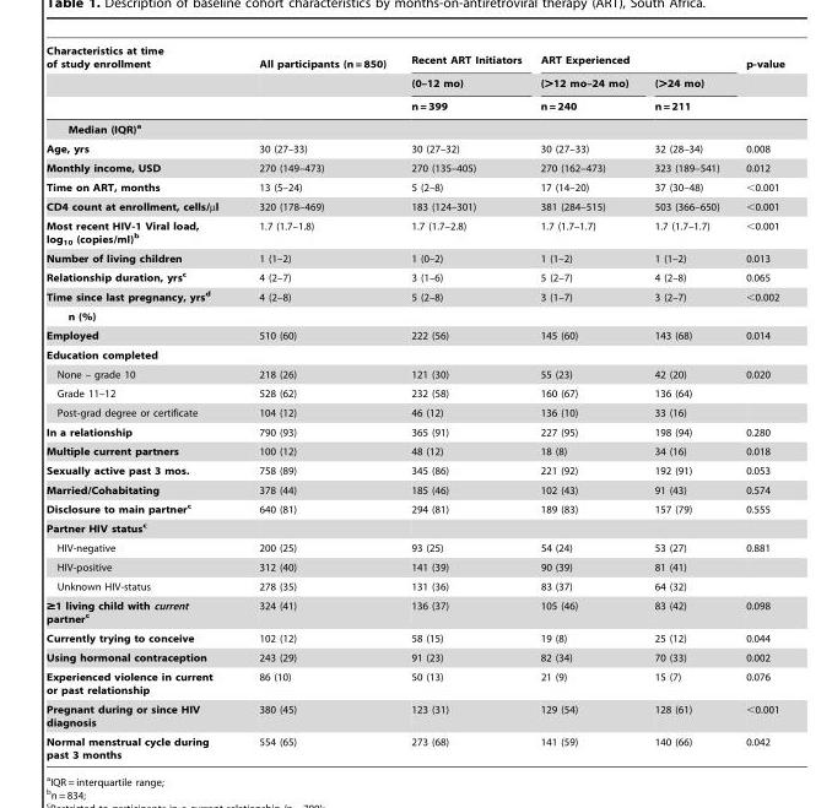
<table><thead><tr><td rowspan="3">Characteristics at time of study enrollment</td><td rowspan="3">All participants (n = 850)</td><td rowspan="3">Recent ART Initiators (0–12 mo) n = 399</td><td colspan="2">ART Experienced</td><td rowspan="3">p-value</td></tr><tr><td rowspan="2">(&gt;12 mo–24 mo) n = 240</td><td rowspan="2">(&gt;24 mo) n = 211</td></tr><tr></tr></thead><tbody><tr><td colspan="6">Median (IQR)a</td></tr><tr><td>Age, yrs</td><td>30 (27–33)</td><td>30 (27–32)</td><td>30 (27–33)</td><td>32 (28–34)</td><td>0.008</td></tr><tr><td>Monthly income, USD</td><td>270 (149–473)</td><td>270 (135–405)</td><td>270 (162–473)</td><td>323 (189–541)</td><td>0.012</td></tr><tr><td>Time on ART, months</td><td>13 (5–24)</td><td>5 (2–8)</td><td>17 (14–20)</td><td>37 (30–48)</td><td>&lt;0.001</td></tr><tr><td>CD4 count at enrollment, cells/µl</td><td>320 (178–469)</td><td>183 (124–301)</td><td>381 (284–515)</td><td>503 (366–650)</td><td>&lt;0.001</td></tr><tr><td>Most recent HIV-1 Viral load, log<sub>10</sub> (copies/ml)b</td><td>1.7 (1.7–1.8)</td><td>1.7 (1.7–2.8)</td><td>1.7 (1.7–1.7)</td><td>1.7 (1.7–1.7)</td><td>&lt;0.001</td></tr><tr><td>Number of living children</td><td>1 (1–2)</td><td>1 (0–2)</td><td>1 (1–2)</td><td>1 (1–2)</td><td>0.013</td></tr><tr><td>Relationship duration, yrsc</td><td>4 (2–7)</td><td>3 (1–6)</td><td>5 (2–7)</td><td>4 (2–8)</td><td>0.065</td></tr><tr><td>Time since last pregnancy, yrsd</td><td>4 (2–8)</td><td>5 (2–8)</td><td>3 (1–7)</td><td>3 (2–7)</td><td>&lt;0.002</td></tr><tr><td colspan="6">n (%)</td></tr><tr><td>Employed</td><td>510 (60)</td><td>222 (56)</td><td>145 (60)</td><td>143 (68)</td><td>0.014</td></tr><tr><td colspan="6">Education completed</td></tr><tr><td>None – grade 10</td><td>218 (26)</td><td>121 (30)</td><td>55 (23)</td><td>42 (20)</td><td>0.020</td></tr><tr><td>Grade 11–12</td><td>528 (62)</td><td>232 (58)</td><td>160 (67)</td><td>136 (64)</td><td></td></tr><tr><td>Post-grad degree or certificate</td><td>104 (12)</td><td>46 (12)</td><td>136 (10)</td><td>33 (16)</td><td></td></tr><tr><td>In a relationship</td><td>790 (93)</td><td>365 (91)</td><td>227 (95)</td><td>198 (94)</td><td>0.280</td></tr><tr><td>Multiple current partners</td><td>100 (12)</td><td>48 (12)</td><td>18 (8)</td><td>34 (16)</td><td>0.018</td></tr><tr><td>Sexually active past 3 mos.</td><td>758 (89)</td><td>345 (86)</td><td>221 (92)</td><td>192 (91)</td><td>0.053</td></tr><tr><td>Married/Cohabitating</td><td>378 (44)</td><td>185 (46)</td><td>102 (43)</td><td>91 (43)</td><td>0.574</td></tr><tr><td>Disclosure to main partnerc</td><td>640 (81)</td><td>294 (81)</td><td>189 (83)</td><td>157 (79)</td><td>0.555</td></tr><tr><td colspan="6">Partner HIV statusc</td></tr><tr><td>HIV-negative</td><td>200 (25)</td><td>93 (25)</td><td>54 (24)</td><td>53 (27)</td><td>0.881</td></tr><tr><td>HIV-positive</td><td>312 (40)</td><td>141 (39)</td><td>90 (39)</td><td>81 (41)</td><td></td></tr><tr><td>Unknown HIV-status</td><td>278 (35)</td><td>131 (36)</td><td>83 (37)</td><td>64 (32)</td><td></td></tr><tr><td>≥1 living child with current partnerc</td><td>324 (41)</td><td>136 (37)</td><td>105 (46)</td><td>83 (42)</td><td>0.098</td></tr><tr><td>Currently trying to conceive</td><td>102 (12)</td><td>58 (15)</td><td>19 (8)</td><td>25 (12)</td><td>0.044</td></tr><tr><td>Using hormonal contraception</td><td>243 (29)</td><td>91 (23)</td><td>82 (34)</td><td>70 (33)</td><td>0.002</td></tr><tr><td>Experienced violence in current or past relationship</td><td>86 (10)</td><td>50 (13)</td><td>21 (9)</td><td>15 (7)</td><td>0.076</td></tr><tr><td>Pregnant during or since HIV diagnosis</td><td>380 (45)</td><td>123 (31)</td><td>129 (54)</td><td>128 (61)</td><td>&lt;0.001</td></tr><tr><td>Normal menstrual cycle during past 3 months</td><td>554 (65)</td><td>273 (68)</td><td>141 (59)</td><td>140 (66)</td><td>0.042</td></tr></tbody></table>